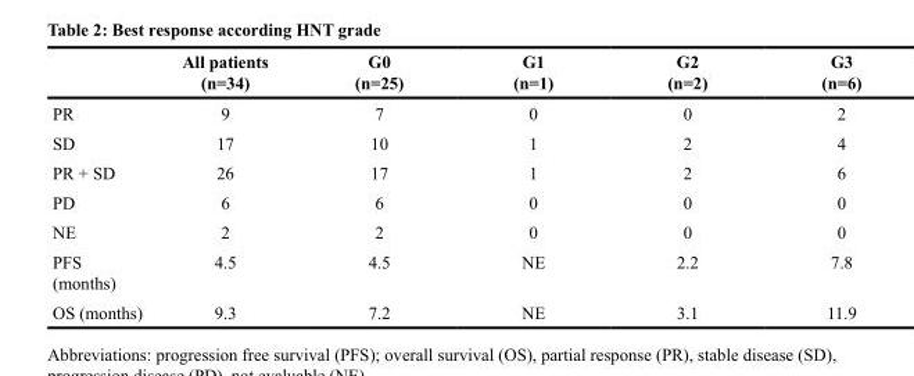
<table><thead><tr><td></td><td>All patients (n=34)</td><td>G0 (n=25)</td><td>G1 (n=1)</td><td>G2 (n=2)</td><td>G3 (n=6)</td></tr></thead><tbody><tr><td>PR</td><td>9</td><td>7</td><td>0</td><td>0</td><td>2</td></tr><tr><td>SD</td><td>17</td><td>10</td><td>1</td><td>2</td><td>4</td></tr><tr><td>PR + SD</td><td>26</td><td>17</td><td>1</td><td>2</td><td>6</td></tr><tr><td>PD</td><td>6</td><td>6</td><td>0</td><td>0</td><td>0</td></tr><tr><td>NE</td><td>2</td><td>2</td><td>0</td><td>0</td><td>0</td></tr><tr><td>PFS (months)</td><td>4.5</td><td>4.5</td><td>NE</td><td>2.2</td><td>7.8</td></tr><tr><td>OS (months)</td><td>9.3</td><td>7.2</td><td>NE</td><td>3.1</td><td>11.9</td></tr></tbody></table>